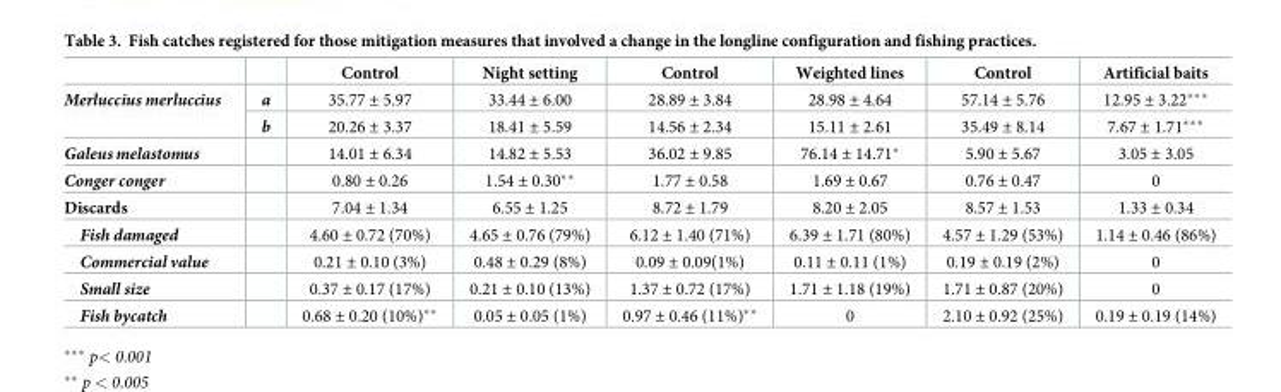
<table><thead><tr><td></td><td></td><td>Control</td><td>Night setting</td><td>Control</td><td>Weighted lines</td><td>Control</td><td>Artificial baits</td></tr></thead><tbody><tr><td rowspan="2">Merluccius merluccius</td><td>a</td><td>35.77 ± 5.97</td><td>33.44 ± 6.00</td><td>28.89 ± 3.84</td><td>28.98 ± 4.64</td><td>57.14 ± 5.76</td><td>12.95 ± 3.22***</td></tr><tr><td>b</td><td>20.26 ± 3.37</td><td>18.41 ± 5.59</td><td>14.56 ± 2.34</td><td>15.11 ± 2.61</td><td>35.49 ± 8.14</td><td>7.67 ± 1.71***</td></tr><tr><td>Galeus melastomus</td><td></td><td>14.01 ± 6.34</td><td>14.82 ± 5.53</td><td>36.02 ± 9.85</td><td>76.14 ± 14.71*</td><td>5.90 ± 5.67</td><td>3.05 ± 3.05</td></tr><tr><td>Conger conger</td><td></td><td>0.80 ± 0.26</td><td>1.54 ± 0.30**</td><td>1.77 ± 0.58</td><td>1.69 ± 0.67</td><td>0.76 ± 0.47</td><td>0</td></tr><tr><td>Discards</td><td></td><td>7.04 ± 1.34</td><td>6.55 ± 1.25</td><td>8.72 ± 1.79</td><td>8.20 ± 2.05</td><td>8.57 ± 1.53</td><td>1.33 ± 0.34</td></tr><tr><td>Fish damaged</td><td></td><td>4.60 ± 0.72 (70%)</td><td>4.65 ± 0.76 (79%)</td><td>6.12 ± 1.40 (71%)</td><td>6.39 ± 1.71 (80%)</td><td>4.57 ± 1.29 (53%)</td><td>1.14 ± 0.46 (86%)</td></tr><tr><td>Commercial value</td><td></td><td>0.21 ± 0.10 (3%)</td><td>0.48 ± 0.29 (8%)</td><td>0.09 ± 0.09(1%)</td><td>0.11 ± 0.11 (1%)</td><td>0.19 ± 0.19 (2%)</td><td>0</td></tr><tr><td>Small size</td><td></td><td>0.37 ± 0.17 (17%)</td><td>0.21 ± 0.10 (13%)</td><td>1.37 ± 0.72 (17%)</td><td>1.71 ± 1.18 (19%)</td><td>1.71 ± 0.87 (20%)</td><td>0</td></tr><tr><td>Fish bycatch</td><td></td><td>0.68 ± 0.20 (10%)**</td><td>0.05 ± 0.05 (1%)</td><td>0.97 ± 0.46 (11%)**</td><td>0</td><td>2.10 ± 0.92 (25%)</td><td>0.19 ± 0.19 (14%)</td></tr></tbody></table>